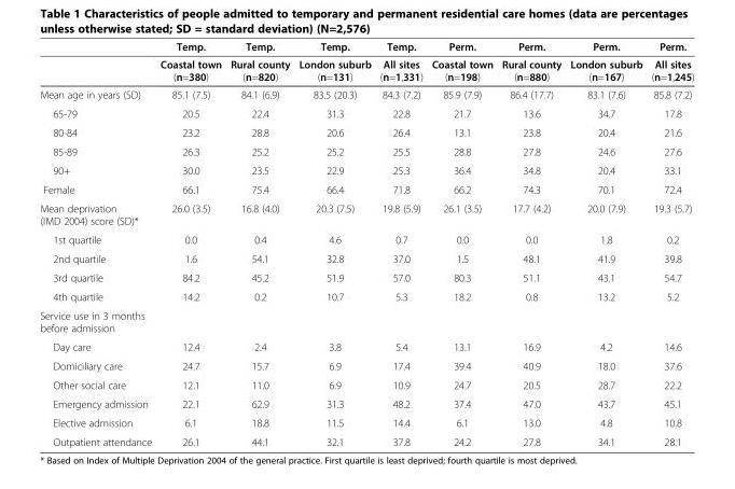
<table><thead><tr><td></td><td>Temp.</td><td>Temp.</td><td>Temp.</td><td>Temp.</td><td>Perm.</td><td>Perm.</td><td>Perm.</td><td>Perm.</td></tr></thead><tbody><tr><td></td><td>Coastal town (n=380)</td><td>Rural county (n=820)</td><td>London suburb (n=131)</td><td>All sites (n=1,331)</td><td>Coastal town (n=198)</td><td>Rural county (n=880)</td><td>London suburb (n=167)</td><td>All sites (n=1,245)</td></tr><tr><td>Mean age in years (SD)</td><td>85.1 (7.5)</td><td>84.1 (6.9)</td><td>83.5 (20.3)</td><td>84.3 (7.2)</td><td>85.9 (7.9)</td><td>86.4 (17.7)</td><td>83.1 (7.6)</td><td>85.8 (7.2)</td></tr><tr><td>65-79</td><td>20.5</td><td>22.4</td><td>31.3</td><td>22.8</td><td>21.7</td><td>13.6</td><td>34.7</td><td>17.8</td></tr><tr><td>80-84</td><td>23.2</td><td>28.8</td><td>20.6</td><td>26.4</td><td>13.1</td><td>23.8</td><td>20.4</td><td>21.6</td></tr><tr><td>85-89</td><td>26.3</td><td>25.2</td><td>25.2</td><td>25.5</td><td>28.8</td><td>27.8</td><td>24.6</td><td>27.6</td></tr><tr><td>90+</td><td>30.0</td><td>23.5</td><td>22.9</td><td>25.3</td><td>36.4</td><td>34.8</td><td>20.4</td><td>33.1</td></tr><tr><td>Female</td><td>66.1</td><td>75.4</td><td>66.4</td><td>71.8</td><td>66.2</td><td>74.3</td><td>70.1</td><td>72.4</td></tr><tr><td>Mean deprivation (IMD 2004) score (SD)*</td><td>26.0 (3.5)</td><td>16.8 (4.0)</td><td>20.3 (7.5)</td><td>19.8 (5.9)</td><td>26.1 (3.5)</td><td>17.7 (4.2)</td><td>20.0 (7.9)</td><td>19.3 (5.7)</td></tr><tr><td>1st quartile</td><td>0.0</td><td>0.4</td><td>4.6</td><td>0.7</td><td>0.0</td><td>0.0</td><td>1.8</td><td>0.2</td></tr><tr><td>2nd quartile</td><td>1.6</td><td>54.1</td><td>32.8</td><td>37.0</td><td>1.5</td><td>48.1</td><td>41.9</td><td>39.8</td></tr><tr><td>3rd quartile</td><td>84.2</td><td>45.2</td><td>51.9</td><td>57.0</td><td>80.3</td><td>51.1</td><td>43.1</td><td>54.7</td></tr><tr><td>4th quartile</td><td>14.2</td><td>0.2</td><td>10.7</td><td>5.3</td><td>18.2</td><td>0.8</td><td>13.2</td><td>5.2</td></tr><tr><td colspan="9">Service use in 3 months before admission</td></tr><tr><td>Day care</td><td>12.4</td><td>2.4</td><td>3.8</td><td>5.4</td><td>13.1</td><td>16.9</td><td>4.2</td><td>14.6</td></tr><tr><td>Domiciliary care</td><td>24.7</td><td>15.7</td><td>6.9</td><td>17.4</td><td>39.4</td><td>40.9</td><td>18.0</td><td>37.6</td></tr><tr><td>Other social care</td><td>12.1</td><td>11.0</td><td>6.9</td><td>10.9</td><td>24.7</td><td>20.5</td><td>28.7</td><td>22.2</td></tr><tr><td>Emergency admission</td><td>22.1</td><td>62.9</td><td>31.3</td><td>48.2</td><td>37.4</td><td>47.0</td><td>43.7</td><td>45.1</td></tr><tr><td>Elective admission</td><td>6.1</td><td>18.8</td><td>11.5</td><td>14.4</td><td>6.1</td><td>13.0</td><td>4.8</td><td>10.8</td></tr><tr><td>Outpatient attendance</td><td>26.1</td><td>44.1</td><td>32.1</td><td>37.8</td><td>24.2</td><td>27.8</td><td>34.1</td><td>28.1</td></tr></tbody></table>